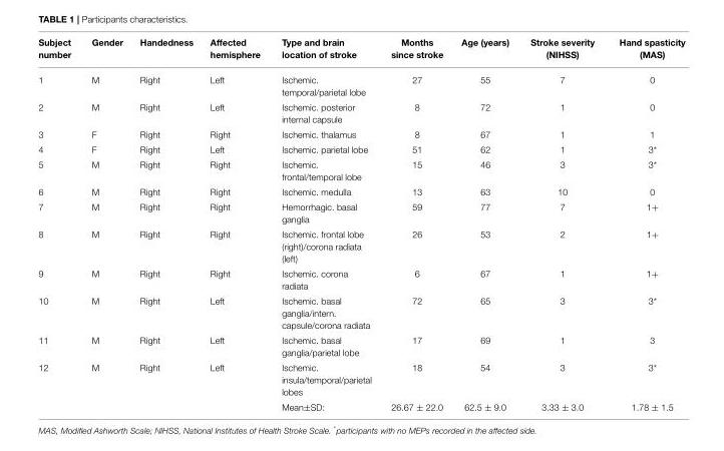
<table><thead><tr><td>Subject number</td><td>Gender</td><td>Handedness</td><td>Affected hemisphere</td><td>Type and brain location of stroke</td><td>Months since stroke</td><td>Age (years)</td><td>Stroke severity (NIHSS)</td><td>Hand spasticity (MAS)</td></tr></thead><tbody><tr><td>1</td><td>M</td><td>Right</td><td>Left</td><td>Ischemic. temporal/parietal lobe</td><td>27</td><td>55</td><td>7</td><td>0</td></tr><tr><td>2</td><td>M</td><td>Right</td><td>Left</td><td>Ischemic. posterior internal capsule</td><td>8</td><td>72</td><td>1</td><td>0</td></tr><tr><td>3</td><td>F</td><td>Right</td><td>Right</td><td>Ischemic. thalamus</td><td>8</td><td>67</td><td>1</td><td>1</td></tr><tr><td>4</td><td>F</td><td>Right</td><td>Left</td><td>Ischemic. parietal lobe</td><td>51</td><td>62</td><td>1</td><td>3*</td></tr><tr><td>5</td><td>M</td><td>Right</td><td>Right</td><td>Ischemic. frontal/temporal lobe</td><td>15</td><td>46</td><td>3</td><td>3*</td></tr><tr><td>6</td><td>M</td><td>Right</td><td>Right</td><td>Ischemic. medulla</td><td>13</td><td>63</td><td>10</td><td>0</td></tr><tr><td>7</td><td>M</td><td>Right</td><td>Right</td><td>Hemorrhagic. basal ganglia</td><td>59</td><td>77</td><td>7</td><td>1+</td></tr><tr><td>8</td><td>M</td><td>Right</td><td>Right</td><td>Ischemic. frontal lobe (right)/corona radiata (left)</td><td>26</td><td>53</td><td>2</td><td>1+</td></tr><tr><td>9</td><td>M</td><td>Right</td><td>Right</td><td>Ischemic. corona radiata</td><td>6</td><td>67</td><td>1</td><td>1+</td></tr><tr><td>10</td><td>M</td><td>Right</td><td>Left</td><td>Ischemic. basal ganglia/intern. capsule/corona radiata</td><td>72</td><td>65</td><td>3</td><td>3*</td></tr><tr><td>11</td><td>M</td><td>Right</td><td>Left</td><td>Ischemic. basal ganglia/parietal lobe</td><td>17</td><td>69</td><td>1</td><td>3</td></tr><tr><td rowspan="2">12</td><td>M</td><td>Right</td><td>Left</td><td>Ischemic. insula/temporal/parietal lobes</td><td>18</td><td>54</td><td>3</td><td>3*</td></tr><tr><td></td><td></td><td></td><td>Mean±SD:</td><td>26.67 ± 22.0</td><td>62.5 ± 9.0</td><td>3.33 ± 3.0</td><td>1.78 ± 1.5</td></tr></tbody></table>